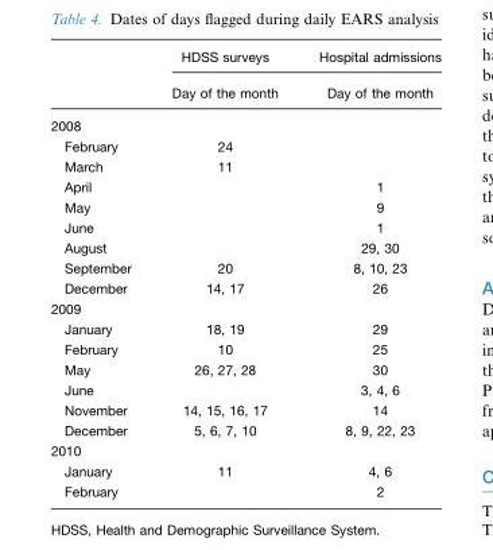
<table><thead><tr><td rowspan="2"></td><td rowspan="2">HDSS surveys Day of the month</td><td rowspan="2">Hospital admissions Day of the month</td></tr><tr></tr></thead><tbody><tr><td colspan="3">2008</td></tr><tr><td>February</td><td>24</td><td></td></tr><tr><td>March</td><td>11</td><td></td></tr><tr><td>April</td><td></td><td>1</td></tr><tr><td>May</td><td></td><td>9</td></tr><tr><td>June</td><td></td><td>1</td></tr><tr><td>August</td><td></td><td>29, 30</td></tr><tr><td>September</td><td>20</td><td>8, 10, 23</td></tr><tr><td>December</td><td>14, 17</td><td>26</td></tr><tr><td colspan="3">2009</td></tr><tr><td>January</td><td>18, 19</td><td>29</td></tr><tr><td>February</td><td>10</td><td>25</td></tr><tr><td>May</td><td>26, 27, 28</td><td>30</td></tr><tr><td>June</td><td></td><td>3, 4, 6</td></tr><tr><td>November</td><td>14, 15, 16, 17</td><td>14</td></tr><tr><td>December</td><td>5, 6, 7, 10</td><td>8, 9, 22, 23</td></tr><tr><td colspan="3">2010</td></tr><tr><td>January</td><td>11</td><td>4, 6</td></tr><tr><td>February</td><td></td><td>2</td></tr></tbody></table>